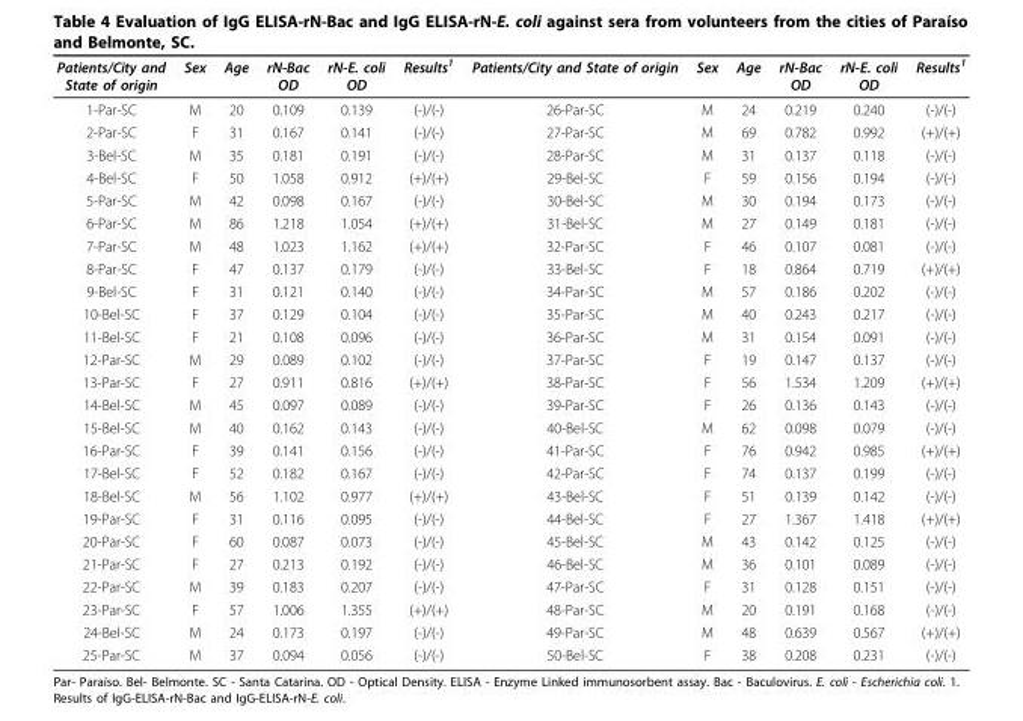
<table><thead><tr><td>Patients/City and State of origin</td><td>Sex</td><td>Age</td><td>rN-Bac OD</td><td>rN-E. coli OD</td><td>Results<sup>1</sup></td><td>Patients/City and State of origin</td><td>Sex</td><td>Age</td><td>rN-Bac OD</td><td>rN-E. coli OD</td><td>Results<sup>1</sup></td></tr></thead><tbody><tr><td>1-Par-SC</td><td>M</td><td>20</td><td>0.109</td><td>0.139</td><td>(-)/(-)</td><td>26-Par-SC</td><td>M</td><td>24</td><td>0.219</td><td>0.240</td><td>(-)/(-)</td></tr><tr><td>2-Par-SC</td><td>F</td><td>31</td><td>0.167</td><td>0.141</td><td>(-)/(-)</td><td>27-Par-SC</td><td>M</td><td>69</td><td>0.782</td><td>0.992</td><td>(+)/(+)</td></tr><tr><td>3-Bel-SC</td><td>M</td><td>35</td><td>0.181</td><td>0.191</td><td>(-)/(-)</td><td>28-Par-SC</td><td>M</td><td>31</td><td>0.137</td><td>0.118</td><td>(-)/(-)</td></tr><tr><td>4-Bel-SC</td><td>F</td><td>50</td><td>1.058</td><td>0.912</td><td>(+)/(+)</td><td>29-Bel-SC</td><td>F</td><td>59</td><td>0.156</td><td>0.194</td><td>(-)/(-)</td></tr><tr><td>5-Par-SC</td><td>M</td><td>42</td><td>0.098</td><td>0.167</td><td>(-)/(-)</td><td>30-Bel-SC</td><td>M</td><td>30</td><td>0.194</td><td>0.173</td><td>(-)/(-)</td></tr><tr><td>6-Par-SC</td><td>M</td><td>86</td><td>1.218</td><td>1.054</td><td>(+)/(+)</td><td>31-Bel-SC</td><td>M</td><td>27</td><td>0.149</td><td>0.181</td><td>(-)/(-)</td></tr><tr><td>7-Par-SC</td><td>M</td><td>48</td><td>1.023</td><td>1.162</td><td>(+)/(+)</td><td>32-Par-SC</td><td>F</td><td>46</td><td>0.107</td><td>0.081</td><td>(-)/(-)</td></tr><tr><td>8-Par-SC</td><td>F</td><td>47</td><td>0.137</td><td>0.179</td><td>(-)/(-)</td><td>33-Bel-SC</td><td>F</td><td>18</td><td>0.864</td><td>0.719</td><td>(+)/(+)</td></tr><tr><td>9-Bel-SC</td><td>F</td><td>31</td><td>0.121</td><td>0.140</td><td>(-)/(-)</td><td>34-Par-SC</td><td>M</td><td>57</td><td>0.186</td><td>0.202</td><td>(-)/(-)</td></tr><tr><td>10-Bel-SC</td><td>F</td><td>37</td><td>0.129</td><td>0.104</td><td>(-)/(-)</td><td>35-Par-SC</td><td>M</td><td>40</td><td>0.243</td><td>0.217</td><td>(-)/(-)</td></tr><tr><td>11-Bel-SC</td><td>F</td><td>21</td><td>0.108</td><td>0.096</td><td>(-)/(-)</td><td>36-Par-SC</td><td>M</td><td>31</td><td>0.154</td><td>0.091</td><td>(-)/(-)</td></tr><tr><td>12-Par-SC</td><td>M</td><td>29</td><td>0.089</td><td>0.102</td><td>(-)/(-)</td><td>37-Par-SC</td><td>F</td><td>19</td><td>0.147</td><td>0.137</td><td>(-)/(-)</td></tr><tr><td>13-Par-SC</td><td>F</td><td>27</td><td>0.911</td><td>0.816</td><td>(+)/(+)</td><td>38-Par-SC</td><td>F</td><td>56</td><td>1.534</td><td>1.209</td><td>(+)/(+)</td></tr><tr><td>14-Bel-SC</td><td>M</td><td>45</td><td>0.097</td><td>0.089</td><td>(-)/(-)</td><td>39-Par-SC</td><td>F</td><td>26</td><td>0.136</td><td>0.143</td><td>(-)/(-)</td></tr><tr><td>15-Bel-SC</td><td>M</td><td>40</td><td>0.162</td><td>0.143</td><td>(-)/(-)</td><td>40-Bel-SC</td><td>M</td><td>62</td><td>0.098</td><td>0.079</td><td>(-)/(-)</td></tr><tr><td>16-Par-SC</td><td>F</td><td>39</td><td>0.141</td><td>0.156</td><td>(-)/(-)</td><td>41-Par-SC</td><td>F</td><td>76</td><td>0.942</td><td>0.985</td><td>(+)/(+)</td></tr><tr><td>17-Bel-SC</td><td>F</td><td>52</td><td>0.182</td><td>0.167</td><td>(-)/(-)</td><td>42-Par-SC</td><td>F</td><td>74</td><td>0.137</td><td>0.199</td><td>(-)/(-)</td></tr><tr><td>18-Bel-SC</td><td>M</td><td>56</td><td>1.102</td><td>0.977</td><td>(+)/(+)</td><td>43-Bel-SC</td><td>F</td><td>51</td><td>0.139</td><td>0.142</td><td>(-)/(-)</td></tr><tr><td>19-Par-SC</td><td>F</td><td>31</td><td>0.116</td><td>0.095</td><td>(-)/(-)</td><td>44-Bel-SC</td><td>F</td><td>27</td><td>1.367</td><td>1.418</td><td>(+)/(+)</td></tr><tr><td>20-Par-SC</td><td>F</td><td>60</td><td>0.087</td><td>0.073</td><td>(-)/(-)</td><td>45-Bel-SC</td><td>M</td><td>43</td><td>0.142</td><td>0.125</td><td>(-)/(-)</td></tr><tr><td>21-Par-SC</td><td>F</td><td>27</td><td>0.213</td><td>0.192</td><td>(-)/(-)</td><td>46-Bel-SC</td><td>M</td><td>36</td><td>0.101</td><td>0.089</td><td>(-)/(-)</td></tr><tr><td>22-Par-SC</td><td>M</td><td>39</td><td>0.183</td><td>0.207</td><td>(-)/(-)</td><td>47-Par-SC</td><td>F</td><td>31</td><td>0.128</td><td>0.151</td><td>(-)/(-)</td></tr><tr><td>23-Par-SC</td><td>F</td><td>57</td><td>1.006</td><td>1.355</td><td>(+)/(+)</td><td>48-Par-SC</td><td>M</td><td>20</td><td>0.191</td><td>0.168</td><td>(-)/(-)</td></tr><tr><td>24-Bel-SC</td><td>M</td><td>24</td><td>0.173</td><td>0.197</td><td>(-)/(-)</td><td>49-Par-SC</td><td>M</td><td>48</td><td>0.639</td><td>0.567</td><td>(+)/(+)</td></tr><tr><td>25-Par-SC</td><td>M</td><td>37</td><td>0.094</td><td>0.056</td><td>(-)/(-)</td><td>50-Bel-SC</td><td>F</td><td>38</td><td>0.208</td><td>0.231</td><td>(-)/(-)</td></tr></tbody></table>